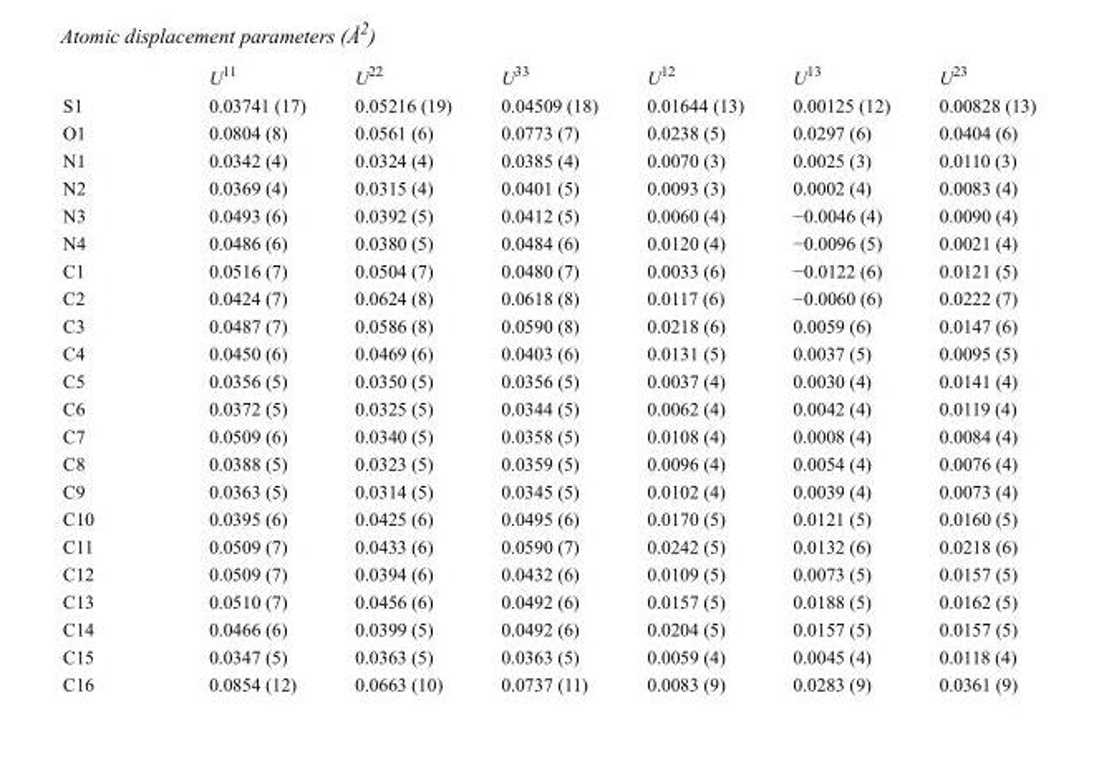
<table><thead><tr><td></td><td>U<sup>11</sup></td><td>U<sup>22</sup></td><td>U<sup>33</sup></td><td>U<sup>12</sup></td><td>U<sup>13</sup></td><td>U<sup>23</sup></td></tr></thead><tbody><tr><td>S1</td><td>0.03741 (17)</td><td>0.05216 (19)</td><td>0.04509 (18)</td><td>0.01644 (13)</td><td>0.00125 (12)</td><td>0.00828 (13)</td></tr><tr><td>O1</td><td>0.0804 (8)</td><td>0.0561 (6)</td><td>0.0773 (7)</td><td>0.0238 (5)</td><td>0.0297 (6)</td><td>0.0404 (6)</td></tr><tr><td>N1</td><td>0.0342 (4)</td><td>0.0324 (4)</td><td>0.0385 (4)</td><td>0.0070 (3)</td><td>0.0025 (3)</td><td>0.0110 (3)</td></tr><tr><td>N2</td><td>0.0369 (4)</td><td>0.0315 (4)</td><td>0.0401 (5)</td><td>0.0093 (3)</td><td>0.0002 (4)</td><td>0.0083 (4)</td></tr><tr><td>N3</td><td>0.0493 (6)</td><td>0.0392 (5)</td><td>0.0412 (5)</td><td>0.0060 (4)</td><td>−0.0046 (4)</td><td>0.0090 (4)</td></tr><tr><td>N4</td><td>0.0486 (6)</td><td>0.0380 (5)</td><td>0.0484 (6)</td><td>0.0120 (4)</td><td>−0.0096 (5)</td><td>0.0021 (4)</td></tr><tr><td>C1</td><td>0.0516 (7)</td><td>0.0504 (7)</td><td>0.0480 (7)</td><td>0.0033 (6)</td><td>−0.0122 (6)</td><td>0.0121 (5)</td></tr><tr><td>C2</td><td>0.0424 (7)</td><td>0.0624 (8)</td><td>0.0618 (8)</td><td>0.0117 (6)</td><td>−0.0060 (6)</td><td>0.0222 (7)</td></tr><tr><td>C3</td><td>0.0487 (7)</td><td>0.0586 (8)</td><td>0.0590 (8)</td><td>0.0218 (6)</td><td>0.0059 (6)</td><td>0.0147 (6)</td></tr><tr><td>C4</td><td>0.0450 (6)</td><td>0.0469 (6)</td><td>0.0403 (6)</td><td>0.0131 (5)</td><td>0.0037 (5)</td><td>0.0095 (5)</td></tr><tr><td>C5</td><td>0.0356 (5)</td><td>0.0350 (5)</td><td>0.0356 (5)</td><td>0.0037 (4)</td><td>0.0030 (4)</td><td>0.0141 (4)</td></tr><tr><td>C6</td><td>0.0372 (5)</td><td>0.0325 (5)</td><td>0.0344 (5)</td><td>0.0062 (4)</td><td>0.0042 (4)</td><td>0.0119 (4)</td></tr><tr><td>C7</td><td>0.0509 (6)</td><td>0.0340 (5)</td><td>0.0358 (5)</td><td>0.0108 (4)</td><td>0.0008 (4)</td><td>0.0084 (4)</td></tr><tr><td>C8</td><td>0.0388 (5)</td><td>0.0323 (5)</td><td>0.0359 (5)</td><td>0.0096 (4)</td><td>0.0054 (4)</td><td>0.0076 (4)</td></tr><tr><td>C9</td><td>0.0363 (5)</td><td>0.0314 (5)</td><td>0.0345 (5)</td><td>0.0102 (4)</td><td>0.0039 (4)</td><td>0.0073 (4)</td></tr><tr><td>C10</td><td>0.0395 (6)</td><td>0.0425 (6)</td><td>0.0495 (6)</td><td>0.0170 (5)</td><td>0.0121 (5)</td><td>0.0160 (5)</td></tr><tr><td>C11</td><td>0.0509 (7)</td><td>0.0433 (6)</td><td>0.0590 (7)</td><td>0.0242 (5)</td><td>0.0132 (6)</td><td>0.0218 (6)</td></tr><tr><td>C12</td><td>0.0509 (7)</td><td>0.0394 (6)</td><td>0.0432 (6)</td><td>0.0109 (5)</td><td>0.0073 (5)</td><td>0.0157 (5)</td></tr><tr><td>C13</td><td>0.0510 (7)</td><td>0.0456 (6)</td><td>0.0492 (6)</td><td>0.0157 (5)</td><td>0.0188 (5)</td><td>0.0162 (5)</td></tr><tr><td>C14</td><td>0.0466 (6)</td><td>0.0399 (5)</td><td>0.0492 (6)</td><td>0.0204 (5)</td><td>0.0157 (5)</td><td>0.0157 (5)</td></tr><tr><td>C15</td><td>0.0347 (5)</td><td>0.0363 (5)</td><td>0.0363 (5)</td><td>0.0059 (4)</td><td>0.0045 (4)</td><td>0.0118 (4)</td></tr><tr><td>C16</td><td>0.0854 (12)</td><td>0.0663 (10)</td><td>0.0737 (11)</td><td>0.0083 (9)</td><td>0.0283 (9)</td><td>0.0361 (9)</td></tr></tbody></table>